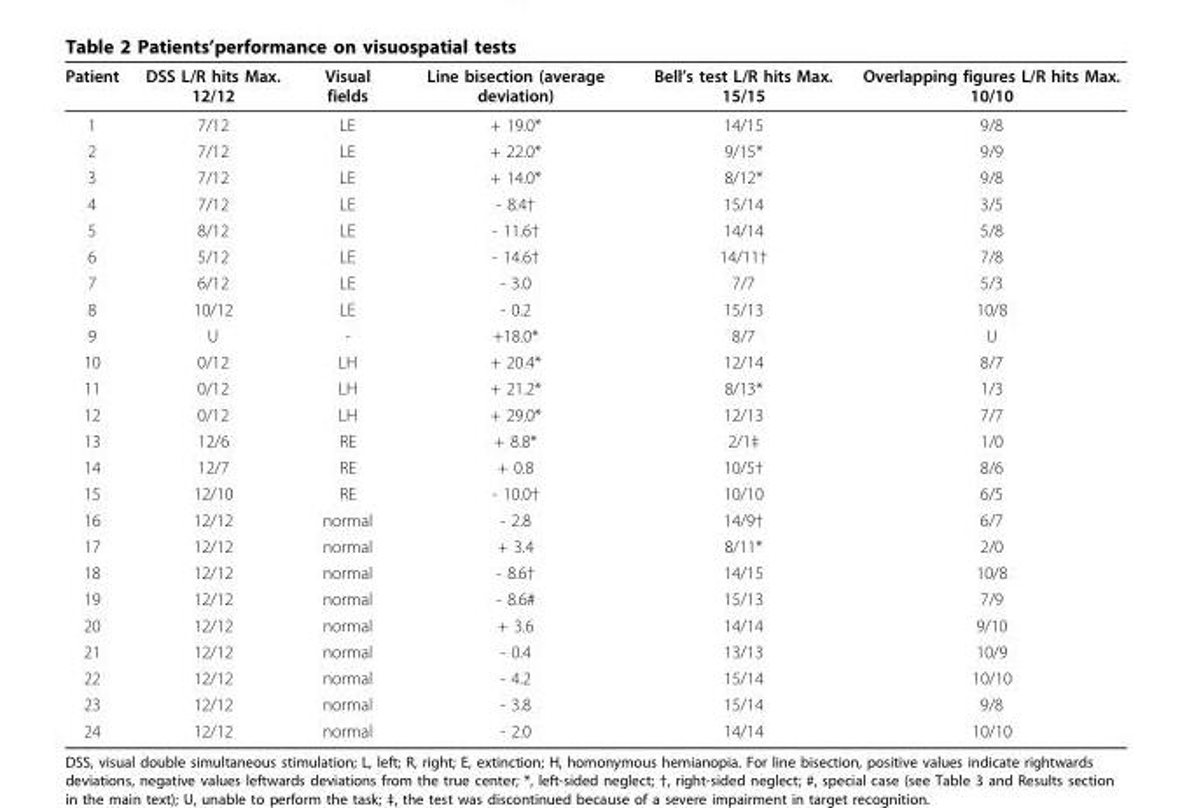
<table><thead><tr><td>Patient</td><td>DSS L/R hits Max. 12/12</td><td>Visual fields</td><td>Line bisection (average deviation)</td><td>Bell’s test L/R hits Max. 15/15</td><td>Overlapping figures L/R hits Max. 10/10</td></tr></thead><tbody><tr><td>1</td><td>7/12</td><td>LE</td><td>+ 19.0*</td><td>14/15</td><td>9/8</td></tr><tr><td>2</td><td>7/12</td><td>LE</td><td>+ 22.0*</td><td>9/15*</td><td>9/9</td></tr><tr><td>3</td><td>7/12</td><td>LE</td><td>+ 14.0*</td><td>8/12*</td><td>9/8</td></tr><tr><td>4</td><td>7/12</td><td>LE</td><td>- 8.4†</td><td>15/14</td><td>3/5</td></tr><tr><td>5</td><td>8/12</td><td>LE</td><td>- 11.6†</td><td>14/14</td><td>5/8</td></tr><tr><td>6</td><td>5/12</td><td>LE</td><td>- 14.6†</td><td>14/11†</td><td>7/8</td></tr><tr><td>7</td><td>6/12</td><td>LE</td><td>- 3.0</td><td>7/7</td><td>5/3</td></tr><tr><td>8</td><td>10/12</td><td>LE</td><td>- 0.2</td><td>15/13</td><td>10/8</td></tr><tr><td>9</td><td>U</td><td>-</td><td>+18.0*</td><td>8/7</td><td>U</td></tr><tr><td>10</td><td>0/12</td><td>LH</td><td>+ 20.4*</td><td>12/14</td><td>8/7</td></tr><tr><td>11</td><td>0/12</td><td>LH</td><td>+ 21.2*</td><td>8/13*</td><td>1/3</td></tr><tr><td>12</td><td>0/12</td><td>LH</td><td>+ 29.0*</td><td>12/13</td><td>7/7</td></tr><tr><td>13</td><td>12/6</td><td>RE</td><td>+ 8.8*</td><td>2/1‡</td><td>1/0</td></tr><tr><td>14</td><td>12/7</td><td>RE</td><td>+ 0.8</td><td>10/5†</td><td>8/6</td></tr><tr><td>15</td><td>12/10</td><td>RE</td><td>- 10.0†</td><td>10/10</td><td>6/5</td></tr><tr><td>16</td><td>12/12</td><td>normal</td><td>- 2.8</td><td>14/9†</td><td>6/7</td></tr><tr><td>17</td><td>12/12</td><td>normal</td><td>+ 3.4</td><td>8/11*</td><td>2/0</td></tr><tr><td>18</td><td>12/12</td><td>normal</td><td>- 8.6†</td><td>14/15</td><td>10/8</td></tr><tr><td>19</td><td>12/12</td><td>normal</td><td>- 8.6#</td><td>15/13</td><td>7/9</td></tr><tr><td>20</td><td>12/12</td><td>normal</td><td>+ 3.6</td><td>14/14</td><td>9/10</td></tr><tr><td>21</td><td>12/12</td><td>normal</td><td>- 0.4</td><td>13/13</td><td>10/9</td></tr><tr><td>22</td><td>12/12</td><td>normal</td><td>- 4.2</td><td>15/14</td><td>10/10</td></tr><tr><td>23</td><td>12/12</td><td>normal</td><td>- 3.8</td><td>15/14</td><td>9/8</td></tr><tr><td>24</td><td>12/12</td><td>normal</td><td>- 2.0</td><td>14/14</td><td>10/10</td></tr></tbody></table>